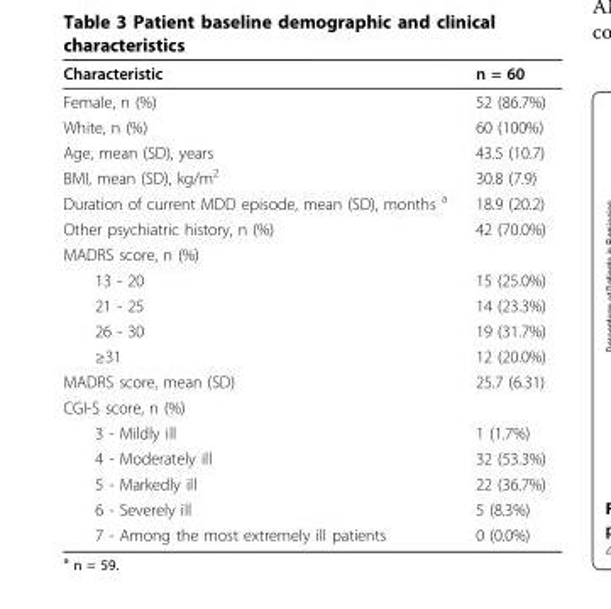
<table><thead><tr><td>Characteristic</td><td>n = 60</td></tr></thead><tbody><tr><td>Female, n (%)</td><td>52 (86.7%)</td></tr><tr><td>White, n (%)</td><td>60 (100%)</td></tr><tr><td>Age, mean (SD), years</td><td>43.5 (10.7)</td></tr><tr><td>BMI, mean (SD), kg/m<sup>2</sup></td><td>30.8 (7.9)</td></tr><tr><td>Duration of current MDD episode, mean (SD), months <sup>a</sup></td><td>18.9 (20.2)</td></tr><tr><td>Other psychiatric history, n (%)</td><td>42 (70.0%)</td></tr><tr><td colspan="2">MADRS score, n (%)</td></tr><tr><td>13 - 20</td><td>15 (25.0%)</td></tr><tr><td>21 - 25</td><td>14 (23.3%)</td></tr><tr><td>26 - 30</td><td>19 (31.7%)</td></tr><tr><td>≥31</td><td>12 (20.0%)</td></tr><tr><td>MADRS score, mean (SD)</td><td>25.7 (6.31)</td></tr><tr><td colspan="2">CGI-S score, n (%)</td></tr><tr><td>3 - Mildly ill</td><td>1 (1.7%)</td></tr><tr><td>4 - Moderately ill</td><td>32 (53.3%)</td></tr><tr><td>5 - Markedly ill</td><td>22 (36.7%)</td></tr><tr><td>6 - Severely ill</td><td>5 (8.3%)</td></tr><tr><td>7 - Among the most extremely ill patients</td><td>0 (0.0%)</td></tr></tbody></table>